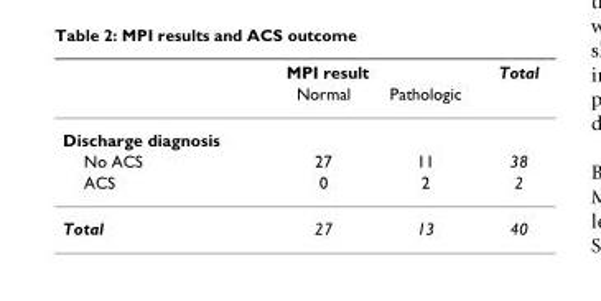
<table><thead><tr><td rowspan="2"></td><td colspan="2">MPI result</td><td rowspan="2">Total</td></tr><tr><td>Normal</td><td>Pathologic</td></tr></thead><tbody><tr><td colspan="4">Discharge diagnosis</td></tr><tr><td>No ACS</td><td>27</td><td>11</td><td>38</td></tr><tr><td>ACS</td><td>0</td><td>2</td><td>2</td></tr><tr><td>Total</td><td>27</td><td>13</td><td>40</td></tr></tbody></table>